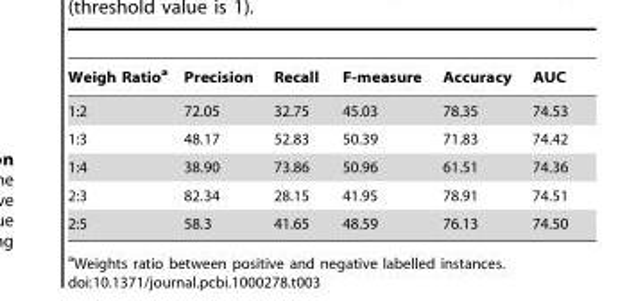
<table><thead><tr><td>Weigh Ratio<sup>a</sup></td><td>Precision</td><td>Recall</td><td>F-measure</td><td>Accuracy</td><td>AUC</td></tr></thead><tbody><tr><td>1:2</td><td>72.05</td><td>32.75</td><td>45.03</td><td>78.35</td><td>74.53</td></tr><tr><td>1:3</td><td>48.17</td><td>52.83</td><td>50.39</td><td>71.83</td><td>74.42</td></tr><tr><td>1:4</td><td>38.90</td><td>73.86</td><td>50.96</td><td>61.51</td><td>74.36</td></tr><tr><td>2:3</td><td>82.34</td><td>28.15</td><td>41.95</td><td>78.91</td><td>74.51</td></tr><tr><td>2:5</td><td>58.3</td><td>41.65</td><td>48.59</td><td>76.13</td><td>74.50</td></tr></tbody></table>